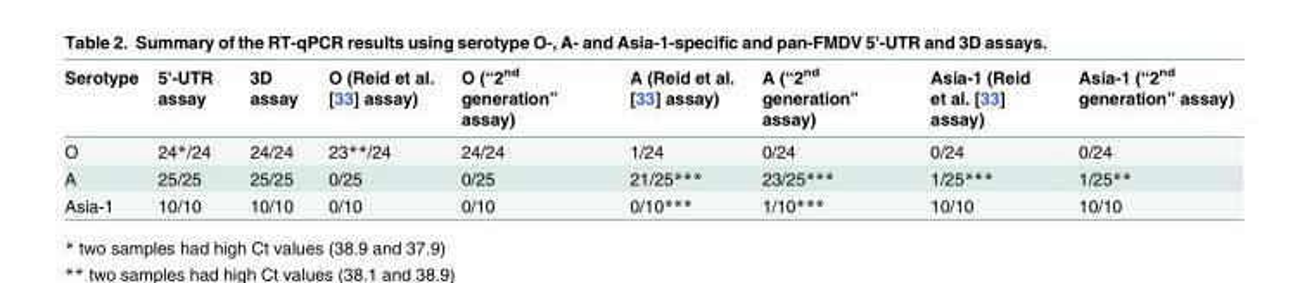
<table><thead><tr><td>Serotype</td><td>5&#x27;-UTR assay</td><td>3D assay</td><td>O (Reid et al. [33] assay)</td><td>O (“2<sup>nd</sup> generation” assay)</td><td>A (Reid et al. [33] assay)</td><td>A (“2<sup>nd</sup> generation” assay)</td><td>Asia-1 (Reid et al. [33] assay)</td><td>Asia-1 (“2<sup>nd</sup> generation” assay)</td></tr></thead><tbody><tr><td>O</td><td>24*/24</td><td>24/24</td><td>23**/24</td><td>24/24</td><td>1/24</td><td>0/24</td><td>0/24</td><td>0/24</td></tr><tr><td>A</td><td>25/25</td><td>25/25</td><td>0/25</td><td>0/25</td><td>21/25***</td><td>23/25***</td><td>1/25***</td><td>1/25**</td></tr><tr><td>Asia-1</td><td>10/10</td><td>10/10</td><td>0/10</td><td>0/10</td><td>0/10***</td><td>1/10***</td><td>10/10</td><td>10/10</td></tr></tbody></table>